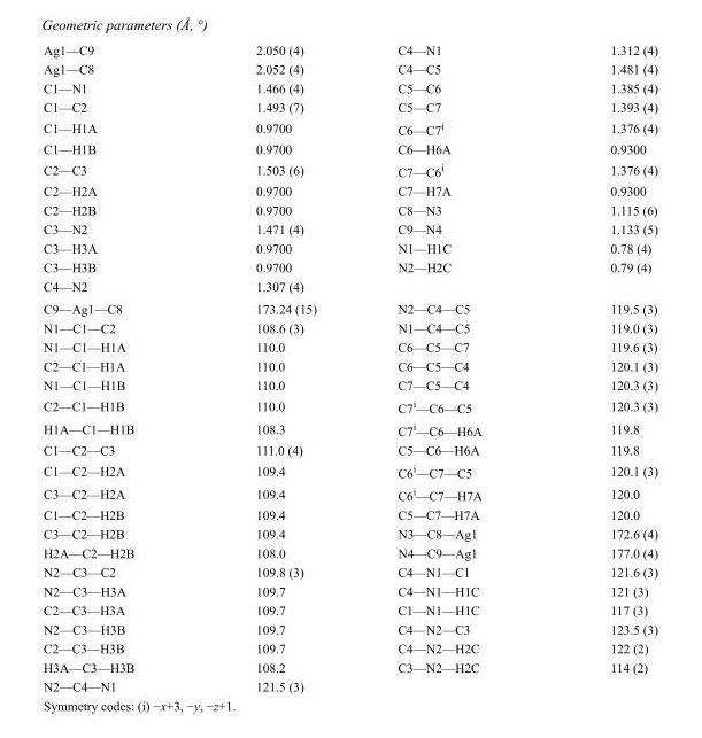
<table><tbody><tr><td>Ag1—C9</td><td>2.050 (4)</td><td>C4—N1</td><td>1.312 (4)</td></tr><tr><td>Ag1—C8</td><td>2.052 (4)</td><td>C4—C5</td><td>1.481 (4)</td></tr><tr><td>C1—N1</td><td>1.466 (4)</td><td>C5—C6</td><td>1.385 (4)</td></tr><tr><td>C1—C2</td><td>1.493 (7)</td><td>C5—C7</td><td>1.393 (4)</td></tr><tr><td>C1—H1A</td><td>0.9700</td><td>C6—C7<sup>i</sup></td><td>1.376 (4)</td></tr><tr><td>C1—H1B</td><td>0.9700</td><td>C6—H6A</td><td>0.9300</td></tr><tr><td>C2—C3</td><td>1.503 (6)</td><td>C7—C6<sup>i</sup></td><td>1.376 (4)</td></tr><tr><td>C2—H2A</td><td>0.9700</td><td>C7—H7A</td><td>0.9300</td></tr><tr><td>C2—H2B</td><td>0.9700</td><td>C8—N3</td><td>1.115 (6)</td></tr><tr><td>C3—N2</td><td>1.471 (4)</td><td>C9—N4</td><td>1.133 (5)</td></tr><tr><td>C3—H3A</td><td>0.9700</td><td>N1—H1C</td><td>0.78 (4)</td></tr><tr><td>C3—H3B</td><td>0.9700</td><td>N2—H2C</td><td>0.79 (4)</td></tr><tr><td>C4—N2</td><td>1.307 (4)</td><td></td><td></td></tr><tr><td>C9—Ag1—C8</td><td>173.24 (15)</td><td>N2—C4—C5</td><td>119.5 (3)</td></tr><tr><td>N1—C1—C2</td><td>108.6 (3)</td><td>N1—C4—C5</td><td>119.0 (3)</td></tr><tr><td>N1—C1—H1A</td><td>110.0</td><td>C6—C5—C7</td><td>119.6 (3)</td></tr><tr><td>C2—C1—H1A</td><td>110.0</td><td>C6—C5—C4</td><td>120.1 (3)</td></tr><tr><td>N1—C1—H1B</td><td>110.0</td><td>C7—C5—C4</td><td>120.3 (3)</td></tr><tr><td>C2—C1—H1B</td><td>110.0</td><td>C7<sup>i</sup>—C6—C5</td><td>120.3 (3)</td></tr><tr><td>H1A—C1—H1B</td><td>108.3</td><td>C7<sup>i</sup>—C6—H6A</td><td>119.8</td></tr><tr><td>C1—C2—C3</td><td>111.0 (4)</td><td>C5—C6—H6A</td><td>119.8</td></tr><tr><td>C1—C2—H2A</td><td>109.4</td><td>C6<sup>i</sup>—C7—C5</td><td>120.1 (3)</td></tr><tr><td>C3—C2—H2A</td><td>109.4</td><td>C6<sup>i</sup>—C7—H7A</td><td>120.0</td></tr><tr><td>C1—C2—H2B</td><td>109.4</td><td>C5—C7—H7A</td><td>120.0</td></tr><tr><td>C3—C2—H2B</td><td>109.4</td><td>N3—C8—Ag1</td><td>172.6 (4)</td></tr><tr><td>H2A—C2—H2B</td><td>108.0</td><td>N4—C9—Ag1</td><td>177.0 (4)</td></tr><tr><td>N2—C3—C2</td><td>109.8 (3)</td><td>C4—N1—C1</td><td>121.6 (3)</td></tr><tr><td>N2—C3—H3A</td><td>109.7</td><td>C4—N1—H1C</td><td>121 (3)</td></tr><tr><td>C2—C3—H3A</td><td>109.7</td><td>C1—N1—H1C</td><td>117 (3)</td></tr><tr><td>N2—C3—H3B</td><td>109.7</td><td>C4—N2—C3</td><td>123.5 (3)</td></tr><tr><td>C2—C3—H3B</td><td>109.7</td><td>C4—N2—H2C</td><td>122 (2)</td></tr><tr><td>H3A—C3—H3B</td><td>108.2</td><td>C3—N2—H2C</td><td>114 (2)</td></tr><tr><td>N2—C4—N1</td><td>121.5 (3)</td><td></td><td></td></tr></tbody></table>